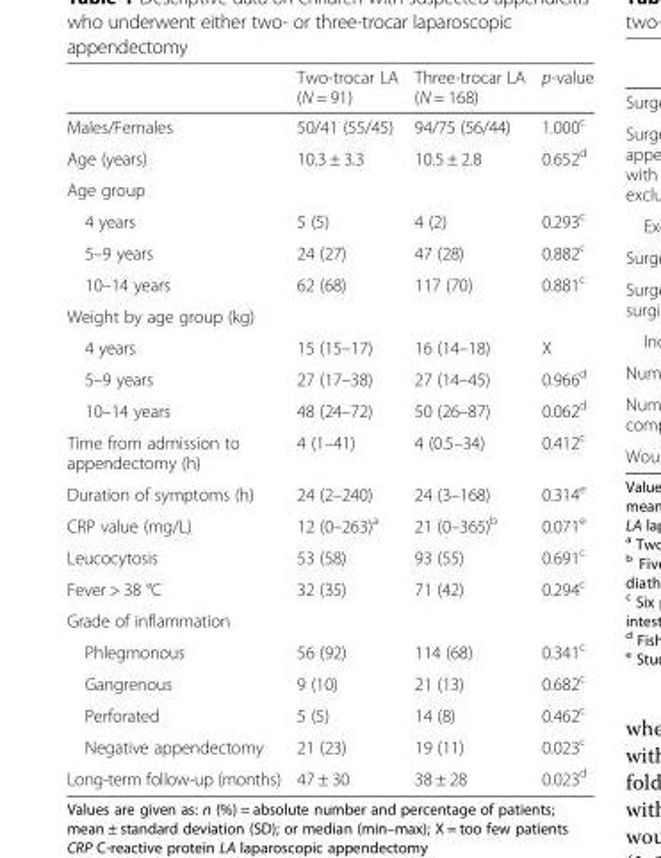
<table><thead><tr><td></td><td>Two-trocar LA (N = 91)</td><td>Three-trocar LA (N = 168)</td><td>p-value</td></tr></thead><tbody><tr><td>Males/Females</td><td>50/41 (55/45)</td><td>94/75 (56/44)</td><td>1.000<sup>c</sup></td></tr><tr><td>Age (years)</td><td>10.3 ± 3.3</td><td>10.5 ± 2.8</td><td>0.652<sup>d</sup></td></tr><tr><td colspan="4">Age group</td></tr><tr><td>4 years</td><td>5 (5)</td><td>4 (2)</td><td>0.293<sup>c</sup></td></tr><tr><td>5–9 years</td><td>24 (27)</td><td>47 (28)</td><td>0.882<sup>c</sup></td></tr><tr><td>10–14 years</td><td>62 (68)</td><td>117 (70)</td><td>0.881<sup>c</sup></td></tr><tr><td colspan="4">Weight by age group (kg)</td></tr><tr><td>4 years</td><td>15 (15–17)</td><td>16 (14–18)</td><td>X</td></tr><tr><td>5–9 years</td><td>27 (17–38)</td><td>27 (14–45)</td><td>0.966<sup>d</sup></td></tr><tr><td>10–14 years</td><td>48 (24–72)</td><td>50 (26–87)</td><td>0.062<sup>d</sup></td></tr><tr><td>Time from admission to appendectomy (h)</td><td>4 (1–41)</td><td>4 (0.5–34)</td><td>0.412<sup>c</sup></td></tr><tr><td>Duration of symptoms (h)</td><td>24 (2–240)</td><td>24 (3–168)</td><td>0.314<sup>e</sup></td></tr><tr><td>CRP value (mg/L)</td><td>12 (0–263)<sup>a</sup></td><td>21 (0–365)<sup>b</sup></td><td>0.071<sup>e</sup></td></tr><tr><td>Leucocytosis</td><td>53 (58)</td><td>93 (55)</td><td>0.691<sup>c</sup></td></tr><tr><td>Fever &gt; 38 °C</td><td>32 (35)</td><td>71 (42)</td><td>0.294<sup>c</sup></td></tr><tr><td colspan="4">Grade of inflammation</td></tr><tr><td>Phlegmonous</td><td>56 (92)</td><td>114 (68)</td><td>0.341<sup>c</sup></td></tr><tr><td>Gangrenous</td><td>9 (10)</td><td>21 (13)</td><td>0.682<sup>c</sup></td></tr><tr><td>Perforated</td><td>5 (5)</td><td>14 (8)</td><td>0.462<sup>c</sup></td></tr><tr><td>Negative appendectomy</td><td>21 (23)</td><td>19 (11)</td><td>0.023<sup>c</sup></td></tr><tr><td>Long-term follow-up (months)</td><td>47 ± 30</td><td>38 ± 28</td><td>0.023<sup>d</sup></td></tr></tbody></table>